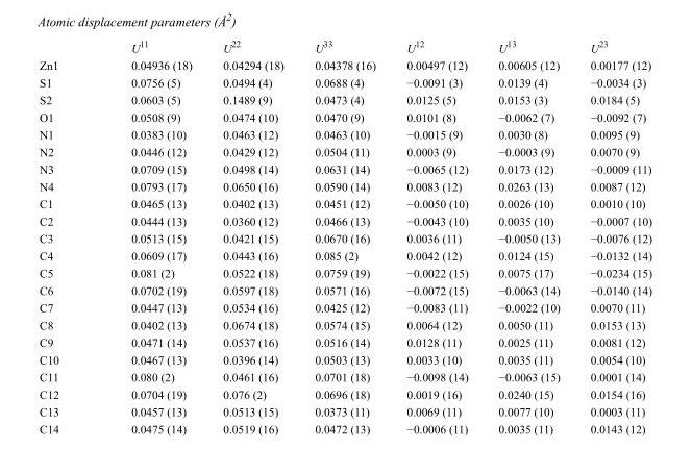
<table><thead><tr><td></td><td>U<sup>11</sup></td><td>U<sup>22</sup></td><td>U<sup>33</sup></td><td>U<sup>12</sup></td><td>U<sup>13</sup></td><td>U<sup>23</sup></td></tr></thead><tbody><tr><td>Zn1</td><td>0.04936 (18)</td><td>0.04294 (18)</td><td>0.04378 (16)</td><td>0.00497 (12)</td><td>0.00605 (12)</td><td>0.00177 (12)</td></tr><tr><td>S1</td><td>0.0756 (5)</td><td>0.0494 (4)</td><td>0.0688 (4)</td><td>−0.0091 (3)</td><td>0.0139 (4)</td><td>−0.0034 (3)</td></tr><tr><td>S2</td><td>0.0603 (5)</td><td>0.1489 (9)</td><td>0.0473 (4)</td><td>0.0125 (5)</td><td>0.0153 (3)</td><td>0.0184 (5)</td></tr><tr><td>O1</td><td>0.0508 (9)</td><td>0.0474 (10)</td><td>0.0470 (9)</td><td>0.0101 (8)</td><td>−0.0062 (7)</td><td>−0.0092 (7)</td></tr><tr><td>N1</td><td>0.0383 (10)</td><td>0.0463 (12)</td><td>0.0463 (10)</td><td>−0.0015 (9)</td><td>0.0030 (8)</td><td>0.0095 (9)</td></tr><tr><td>N2</td><td>0.0446 (12)</td><td>0.0429 (12)</td><td>0.0504 (11)</td><td>0.0003 (9)</td><td>−0.0003 (9)</td><td>0.0070 (9)</td></tr><tr><td>N3</td><td>0.0709 (15)</td><td>0.0498 (14)</td><td>0.0631 (14)</td><td>−0.0065 (12)</td><td>0.0173 (12)</td><td>−0.0009 (11)</td></tr><tr><td>N4</td><td>0.0793 (17)</td><td>0.0650 (16)</td><td>0.0590 (14)</td><td>0.0083 (12)</td><td>0.0263 (13)</td><td>0.0087 (12)</td></tr><tr><td>C1</td><td>0.0465 (13)</td><td>0.0402 (13)</td><td>0.0451 (12)</td><td>−0.0050 (10)</td><td>0.0026 (10)</td><td>0.0010 (10)</td></tr><tr><td>C2</td><td>0.0444 (13)</td><td>0.0360 (12)</td><td>0.0466 (13)</td><td>−0.0043 (10)</td><td>0.0035 (10)</td><td>−0.0007 (10)</td></tr><tr><td>C3</td><td>0.0513 (15)</td><td>0.0421 (15)</td><td>0.0670 (16)</td><td>0.0036 (11)</td><td>−0.0050 (13)</td><td>−0.0076 (12)</td></tr><tr><td>C4</td><td>0.0609 (17)</td><td>0.0443 (16)</td><td>0.085 (2)</td><td>0.0042 (12)</td><td>0.0124 (15)</td><td>−0.0132 (14)</td></tr><tr><td>C5</td><td>0.081 (2)</td><td>0.0522 (18)</td><td>0.0759 (19)</td><td>−0.0022 (15)</td><td>0.0075 (17)</td><td>−0.0234 (15)</td></tr><tr><td>C6</td><td>0.0702 (19)</td><td>0.0597 (18)</td><td>0.0571 (16)</td><td>−0.0072 (15)</td><td>−0.0063 (14)</td><td>−0.0140 (14)</td></tr><tr><td>C7</td><td>0.0447 (13)</td><td>0.0534 (16)</td><td>0.0425 (12)</td><td>−0.0083 (11)</td><td>−0.0022 (10)</td><td>0.0070 (11)</td></tr><tr><td>C8</td><td>0.0402 (13)</td><td>0.0674 (18)</td><td>0.0574 (15)</td><td>0.0064 (12)</td><td>0.0050 (11)</td><td>0.0153 (13)</td></tr><tr><td>C9</td><td>0.0471 (14)</td><td>0.0537 (16)</td><td>0.0516 (14)</td><td>0.0128 (11)</td><td>0.0025 (11)</td><td>0.0081 (12)</td></tr><tr><td>C10</td><td>0.0467 (13)</td><td>0.0396 (14)</td><td>0.0503 (13)</td><td>0.0033 (10)</td><td>0.0035 (11)</td><td>0.0054 (10)</td></tr><tr><td>C11</td><td>0.080 (2)</td><td>0.0461 (16)</td><td>0.0701 (18)</td><td>−0.0098 (14)</td><td>−0.0063 (15)</td><td>0.0001 (14)</td></tr><tr><td>C12</td><td>0.0704 (19)</td><td>0.076 (2)</td><td>0.0696 (18)</td><td>0.0019 (16)</td><td>0.0240 (15)</td><td>0.0154 (16)</td></tr><tr><td>C13</td><td>0.0457 (13)</td><td>0.0513 (15)</td><td>0.0373 (11)</td><td>0.0069 (11)</td><td>0.0077 (10)</td><td>0.0003 (11)</td></tr><tr><td>C14</td><td>0.0475 (14)</td><td>0.0519 (16)</td><td>0.0472 (13)</td><td>−0.0006 (11)</td><td>0.0035 (11)</td><td>0.0143 (12)</td></tr></tbody></table>